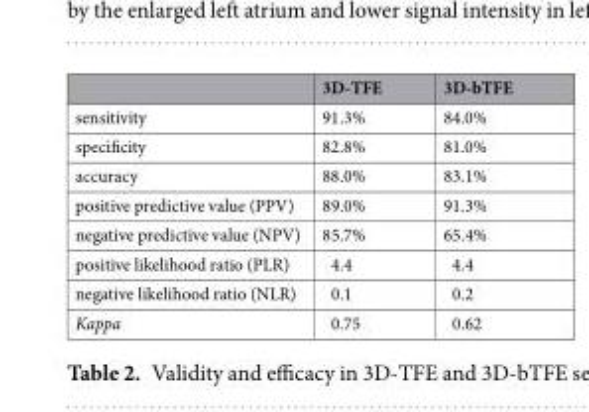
<table><thead><tr><td></td><td>3D-TFE</td><td>3D-bTFE</td></tr></thead><tbody><tr><td>sensitivity</td><td>91.3%</td><td>84.0%</td></tr><tr><td>specificity</td><td>82.8%</td><td>81.0%</td></tr><tr><td>accuracy</td><td>88.0%</td><td>83.1%</td></tr><tr><td>positive predictive value (PPV)</td><td>89.0%</td><td>91.3%</td></tr><tr><td>negative predictive value (NPV)</td><td>85.7%</td><td>65.4%</td></tr><tr><td>positive likelihood ratio (PLR)</td><td>4.4</td><td>4.4</td></tr><tr><td>negative likelihood ratio (NLR)</td><td>0.1</td><td>0.2</td></tr><tr><td>Kappa</td><td>0.75</td><td>0.62</td></tr></tbody></table>